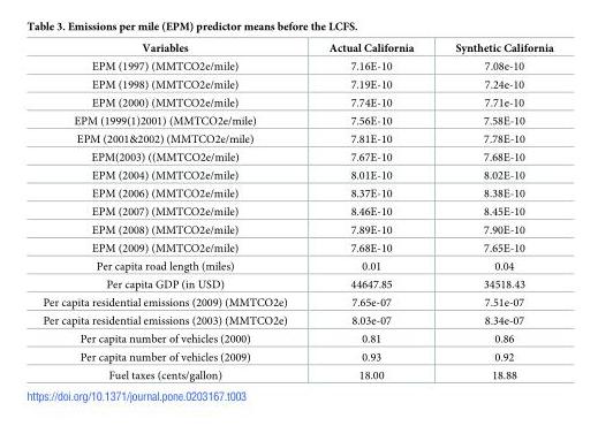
<table><thead><tr><td>Variables</td><td>Actual California</td><td>Synthetic California</td></tr></thead><tbody><tr><td>EPM (1997) (MMTCO2e/mile)</td><td>7.16E-10</td><td>7.08e-10</td></tr><tr><td>EPM (1998) (MMTCO2e/mile)</td><td>7.19E-10</td><td>7.24e-10</td></tr><tr><td>EPM (2000) (MMTCO2e/mile)</td><td>7.74E-10</td><td>7.71e-10</td></tr><tr><td>EPM (1999(1)2001) (MMTCO2e/mile)</td><td>7.56E-10</td><td>7.58E-10</td></tr><tr><td>EPM (2001&amp;2002) (MMTCO2e/mile)</td><td>7.81E-10</td><td>7.78E-10</td></tr><tr><td>EPM(2003) ((MMTCO2e/mile)</td><td>7.67E-10</td><td>7.68E-10</td></tr><tr><td>EPM (2004) (MMTCO2e/mile)</td><td>8.01E-10</td><td>8.02E-10</td></tr><tr><td>EPM (2006) (MMTCO2e/mile)</td><td>8.37E-10</td><td>8.38E-10</td></tr><tr><td>EPM (2007) (MMTCO2e/mile)</td><td>8.46E-10</td><td>8.45E-10</td></tr><tr><td>EPM (2008) (MMTCO2e/mile)</td><td>7.89E-10</td><td>7.90E-10</td></tr><tr><td>EPM (2009) (MMTCO2e/mile)</td><td>7.68E-10</td><td>7.65E-10</td></tr><tr><td>Per capita road length (miles)</td><td>0.01</td><td>0.04</td></tr><tr><td>Per capita GDP (in USD)</td><td>44647.85</td><td>34518.43</td></tr><tr><td>Per capita residential emissions (2009) (MMTCO2e)</td><td>7.65e-07</td><td>7.51e-07</td></tr><tr><td>Per capita residential emissions (2003) (MMTCO2e)</td><td>8.03e-07</td><td>8.34e-07</td></tr><tr><td>Per capita number of vehicles (2000)</td><td>0.81</td><td>0.86</td></tr><tr><td>Per capita number of vehicles (2009)</td><td>0.93</td><td>0.92</td></tr><tr><td>Fuel taxes (cents/gallon)</td><td>18.00</td><td>18.88</td></tr></tbody></table>